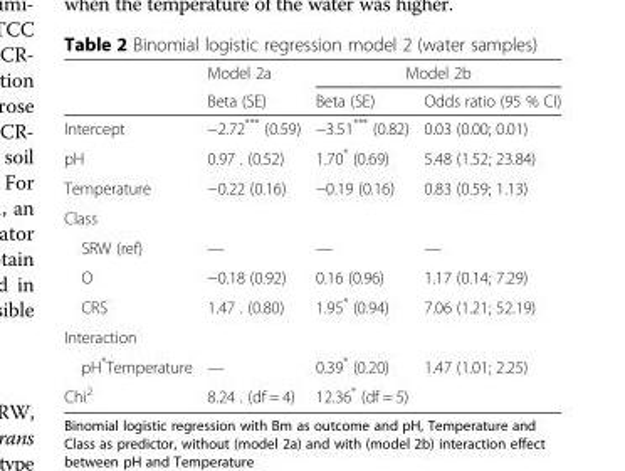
<table><thead><tr><td rowspan="2"></td><td rowspan="2">Model 2a Beta (SE)</td><td colspan="2">Model 2b</td></tr><tr><td>Beta (SE)</td><td>Odds ratio (95 % CI)</td></tr></thead><tbody><tr><td>Intercept</td><td>−2.72*** (0.59)</td><td>−3.51*** (0.82)</td><td>0.03 (0.00; 0.01)</td></tr><tr><td>pH</td><td>0.97 . (0.52)</td><td>1.70* (0.69)</td><td>5.48 (1.52; 23.84)</td></tr><tr><td>Temperature</td><td>−0.22 (0.16)</td><td>−0.19 (0.16)</td><td>0.83 (0.59; 1.13)</td></tr><tr><td colspan="4">Class</td></tr><tr><td>SRW (ref)</td><td>—</td><td>—</td><td>—</td></tr><tr><td>O</td><td>−0.18 (0.92)</td><td>0.16 (0.96)</td><td>1.17 (0.14; 7.29)</td></tr><tr><td>CRS</td><td>1.47 . (0.80)</td><td>1.95* (0.94)</td><td>7.06 (1.21; 52.19)</td></tr><tr><td colspan="4">Interaction</td></tr><tr><td>pH*Temperature</td><td>—</td><td>0.39* (0.20)</td><td>1.47 (1.01; 2.25)</td></tr><tr><td>Chi<sup>2</sup></td><td>8.24 . (df = 4)</td><td>12.36* (df = 5)</td><td></td></tr></tbody></table>